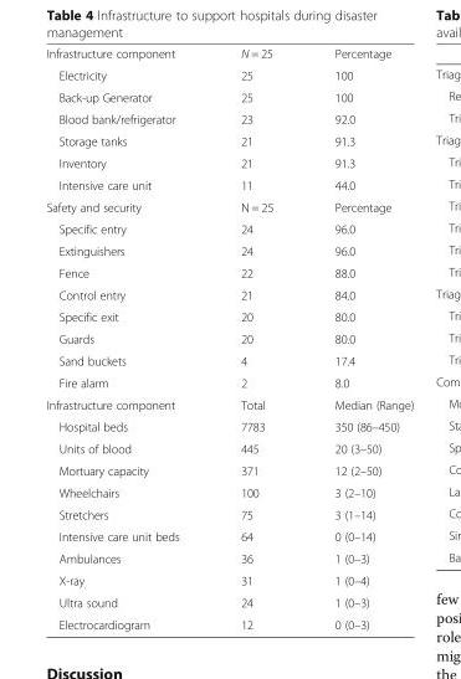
<table><tbody><tr><td>Infrastructure component</td><td>N = 25</td><td>Percentage</td></tr><tr><td>Electricity</td><td>25</td><td>100</td></tr><tr><td>Back-up Generator</td><td>25</td><td>100</td></tr><tr><td>Blood bank/refrigerator</td><td>23</td><td>92.0</td></tr><tr><td>Storage tanks</td><td>21</td><td>91.3</td></tr><tr><td>Inventory</td><td>21</td><td>91.3</td></tr><tr><td>Intensive care unit</td><td>11</td><td>44.0</td></tr><tr><td>Safety and security</td><td>N = 25</td><td>Percentage</td></tr><tr><td>Specific entry</td><td>24</td><td>96.0</td></tr><tr><td>Extinguishers</td><td>24</td><td>96.0</td></tr><tr><td>Fence</td><td>22</td><td>88.0</td></tr><tr><td>Control entry</td><td>21</td><td>84.0</td></tr><tr><td>Specific exit</td><td>20</td><td>80.0</td></tr><tr><td>Guards</td><td>20</td><td>80.0</td></tr><tr><td>Sand buckets</td><td>4</td><td>17.4</td></tr><tr><td>Fire alarm</td><td>2</td><td>8.0</td></tr><tr><td>Infrastructure component</td><td>Total</td><td>Median (Range)</td></tr><tr><td>Hospital beds</td><td>7783</td><td>350 (86–450)</td></tr><tr><td>Units of blood</td><td>445</td><td>20 (3–50)</td></tr><tr><td>Mortuary capacity</td><td>371</td><td>12 (2–50)</td></tr><tr><td>Wheelchairs</td><td>100</td><td>3 (2–10)</td></tr><tr><td>Stretchers</td><td>75</td><td>3 (1–14)</td></tr><tr><td>Intensive care unit beds</td><td>64</td><td>0 (0–14)</td></tr><tr><td>Ambulances</td><td>36</td><td>1 (0–3)</td></tr><tr><td>X-ray</td><td>31</td><td>1 (0–4)</td></tr><tr><td>Ultra sound</td><td>24</td><td>1 (0–3)</td></tr><tr><td>Electrocardiogram</td><td>12</td><td>0 (0–3)</td></tr></tbody></table>